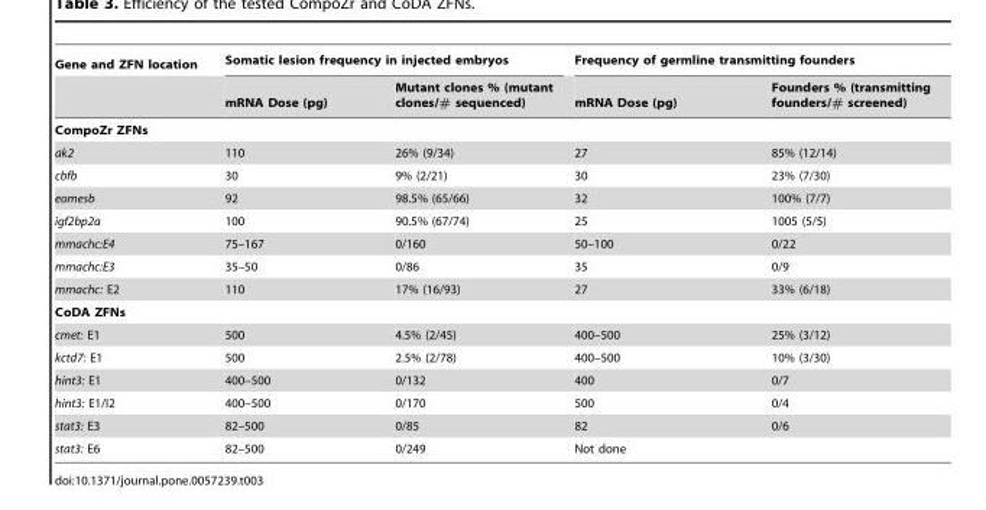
<table><thead><tr><td rowspan="2">Gene and ZFN location</td><td colspan="2">Somatic lesion frequency in injected embryos</td><td colspan="2">Frequency of germline transmitting founders</td></tr><tr><td>mRNA Dose (pg)</td><td>Mutant clones % (mutant clones/# sequenced)</td><td>mRNA Dose (pg)</td><td>Founders % (transmitting founders/# screened)</td></tr></thead><tbody><tr><td colspan="5">CompoZr ZFNs</td></tr><tr><td>ak2</td><td>110</td><td>26% (9/34)</td><td>27</td><td>85% (12/14)</td></tr><tr><td>cbfb</td><td>30</td><td>9% (2/21)</td><td>30</td><td>23% (7/30)</td></tr><tr><td>eomesb</td><td>92</td><td>98.5% (65/66)</td><td>32</td><td>100% (7/7)</td></tr><tr><td>igf2bp2a</td><td>100</td><td>90.5% (67/74)</td><td>25</td><td>1005 (5/5)</td></tr><tr><td>mmachc:E4</td><td>75–167</td><td>0/160</td><td>50–100</td><td>0/22</td></tr><tr><td>mmachc:E3</td><td>35–50</td><td>0/86</td><td>35</td><td>0/9</td></tr><tr><td>mmachc: E2</td><td>110</td><td>17% (16/93)</td><td>27</td><td>33% (6/18)</td></tr><tr><td colspan="5">CoDA ZFNs</td></tr><tr><td>cmet: E1</td><td>500</td><td>4.5% (2/45)</td><td>400–500</td><td>25% (3/12)</td></tr><tr><td>kctd7: E1</td><td>500</td><td>2.5% (2/78)</td><td>400–500</td><td>10% (3/30)</td></tr><tr><td>hint3: E1</td><td>400–500</td><td>0/132</td><td>400</td><td>0/7</td></tr><tr><td>hint3: E1/I2</td><td>400–500</td><td>0/170</td><td>500</td><td>0/4</td></tr><tr><td>stat3: E3</td><td>82–500</td><td>0/85</td><td>82</td><td>0/6</td></tr><tr><td>stat3: E6</td><td>82–500</td><td>0/249</td><td>Not done</td><td></td></tr></tbody></table>